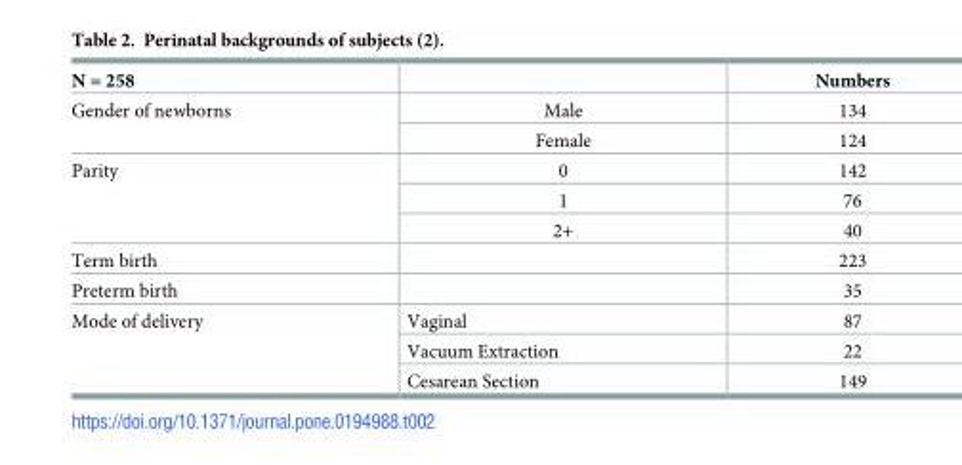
<table><thead><tr><td>N = 258</td><td></td><td>Numbers</td></tr></thead><tbody><tr><td rowspan="2">Gender of newborns</td><td>Male</td><td>134</td></tr><tr><td>Female</td><td>124</td></tr><tr><td rowspan="3">Parity</td><td>0</td><td>142</td></tr><tr><td>1</td><td>76</td></tr><tr><td>2+</td><td>40</td></tr><tr><td>Term birth</td><td></td><td>223</td></tr><tr><td>Preterm birth</td><td></td><td>35</td></tr><tr><td rowspan="3">Mode of delivery</td><td>Vaginal</td><td>87</td></tr><tr><td>Vacuum Extraction</td><td>22</td></tr><tr><td>Cesarean Section</td><td>149</td></tr></tbody></table>